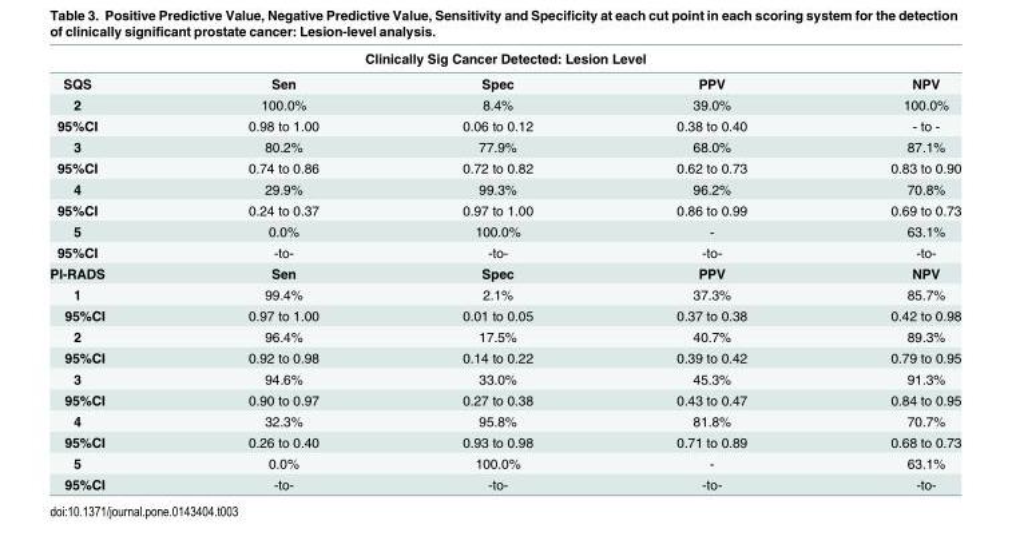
<table><thead><tr><td colspan="5">Clinically Sig Cancer Detected: Lesion Level</td></tr><tr><td>SQS</td><td>Sen</td><td>Spec</td><td>PPV</td><td>NPV</td></tr></thead><tbody><tr><td>2</td><td>100.0%</td><td>8.4%</td><td>39.0%</td><td>100.0%</td></tr><tr><td>95%CI</td><td>0.98 to 1.00</td><td>0.06 to 0.12</td><td>0.38 to 0.40</td><td>- to -</td></tr><tr><td>3</td><td>80.2%</td><td>77.9%</td><td>68.0%</td><td>87.1%</td></tr><tr><td>95%CI</td><td>0.74 to 0.86</td><td>0.72 to 0.82</td><td>0.62 to 0.73</td><td>0.83 to 0.90</td></tr><tr><td>4</td><td>29.9%</td><td>99.3%</td><td>96.2%</td><td>70.8%</td></tr><tr><td>95%CI</td><td>0.24 to 0.37</td><td>0.97 to 1.00</td><td>0.86 to 0.99</td><td>0.69 to 0.73</td></tr><tr><td>5</td><td>0.0%</td><td>100.0%</td><td>-</td><td>63.1%</td></tr><tr><td>95%CI</td><td>-to-</td><td>-to-</td><td>-to-</td><td>-to-</td></tr><tr><td>PI-RADS</td><td>Sen</td><td>Spec</td><td>PPV</td><td>NPV</td></tr><tr><td>1</td><td>99.4%</td><td>2.1%</td><td>37.3%</td><td>85.7%</td></tr><tr><td>95%CI</td><td>0.97 to 1.00</td><td>0.01 to 0.05</td><td>0.37 to 0.38</td><td>0.42 to 0.98</td></tr><tr><td>2</td><td>96.4%</td><td>17.5%</td><td>40.7%</td><td>89.3%</td></tr><tr><td>95%CI</td><td>0.92 to 0.98</td><td>0.14 to 0.22</td><td>0.39 to 0.42</td><td>0.79 to 0.95</td></tr><tr><td>3</td><td>94.6%</td><td>33.0%</td><td>45.3%</td><td>91.3%</td></tr><tr><td>95%CI</td><td>0.90 to 0.97</td><td>0.27 to 0.38</td><td>0.43 to 0.47</td><td>0.84 to 0.95</td></tr><tr><td>4</td><td>32.3%</td><td>95.8%</td><td>81.8%</td><td>70.7%</td></tr><tr><td>95%CI</td><td>0.26 to 0.40</td><td>0.93 to 0.98</td><td>0.71 to 0.89</td><td>0.68 to 0.73</td></tr><tr><td>5</td><td>0.0%</td><td>100.0%</td><td>-</td><td>63.1%</td></tr><tr><td>95%CI</td><td>-to-</td><td>-to-</td><td>-to-</td><td>-to-</td></tr></tbody></table>